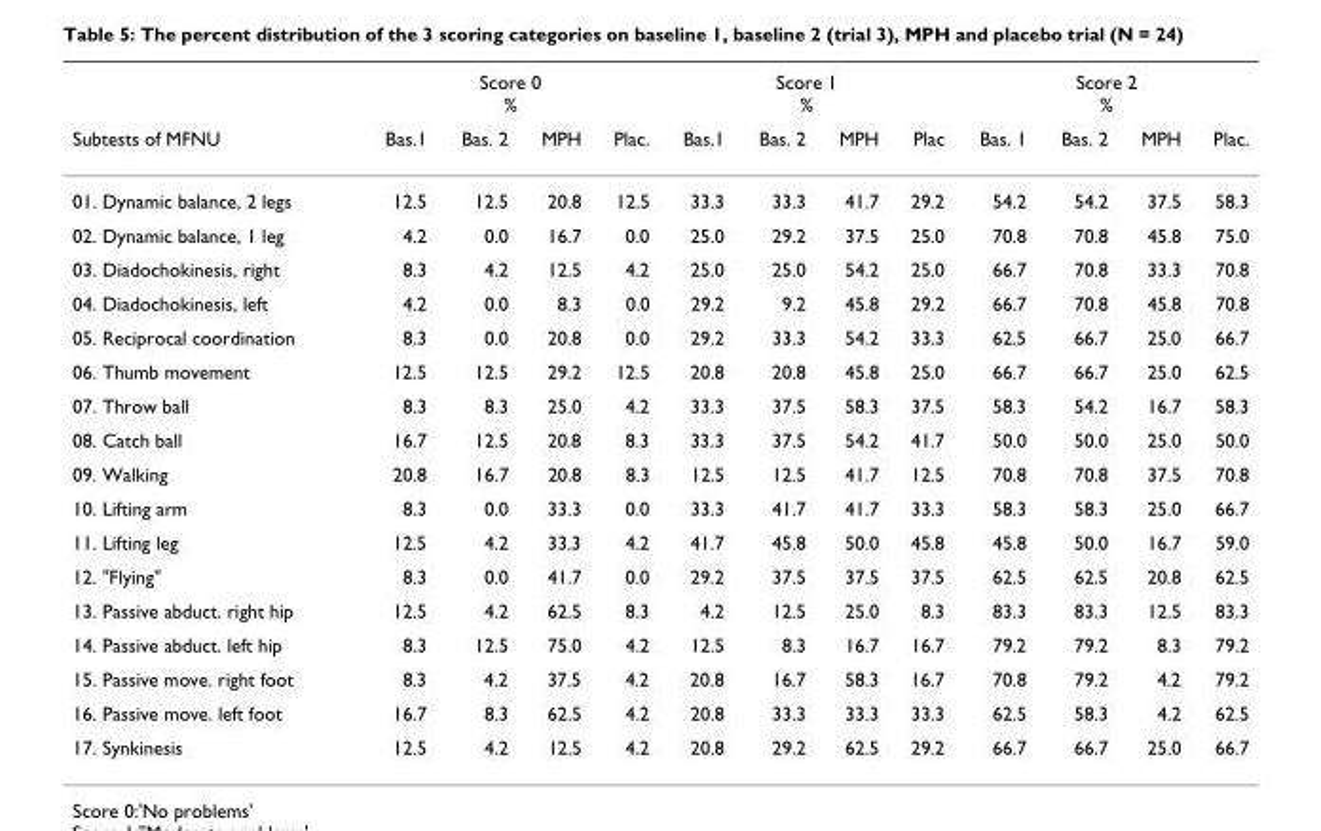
<table><thead><tr><td rowspan="2">Subtests of MFNU</td><td colspan="4">Score 0 %</td><td colspan="4">Score 1 %</td><td colspan="4">Score 2 %</td></tr><tr><td>Bas.1</td><td>Bas. 2</td><td>MPH</td><td>Plac.</td><td>Bas.1</td><td>Bas. 2</td><td>MPH</td><td>Plac</td><td>Bas. 1</td><td>Bas. 2</td><td>MPH</td><td>Plac.</td></tr></thead><tbody><tr><td>01. Dynamic balance, 2 legs</td><td>12.5</td><td>12.5</td><td>20.8</td><td>12.5</td><td>33.3</td><td>33.3</td><td>41.7</td><td>29.2</td><td>54.2</td><td>54.2</td><td>37.5</td><td>58.3</td></tr><tr><td>02. Dynamic balance, 1 leg</td><td>4.2</td><td>0.0</td><td>16.7</td><td>0.0</td><td>25.0</td><td>29.2</td><td>37.5</td><td>25.0</td><td>70.8</td><td>70.8</td><td>45.8</td><td>75.0</td></tr><tr><td>03. Diadochokinesis, right</td><td>8.3</td><td>4.2</td><td>12.5</td><td>4.2</td><td>25.0</td><td>25.0</td><td>54.2</td><td>25.0</td><td>66.7</td><td>70.8</td><td>33.3</td><td>70.8</td></tr><tr><td>04. Diadochokinesis, left</td><td>4.2</td><td>0.0</td><td>8.3</td><td>0.0</td><td>29.2</td><td>9.2</td><td>45.8</td><td>29.2</td><td>66.7</td><td>70.8</td><td>45.8</td><td>70.8</td></tr><tr><td>05. Reciprocal coordination</td><td>8.3</td><td>0.0</td><td>20.8</td><td>0.0</td><td>29.2</td><td>33.3</td><td>54.2</td><td>33.3</td><td>62.5</td><td>66.7</td><td>25.0</td><td>66.7</td></tr><tr><td>06. Thumb movement</td><td>12.5</td><td>12.5</td><td>29.2</td><td>12.5</td><td>20.8</td><td>20.8</td><td>45.8</td><td>25.0</td><td>66.7</td><td>66.7</td><td>25.0</td><td>62.5</td></tr><tr><td>07. Throw ball</td><td>8.3</td><td>8.3</td><td>25.0</td><td>4.2</td><td>33.3</td><td>37.5</td><td>58.3</td><td>37.5</td><td>58.3</td><td>54.2</td><td>16.7</td><td>58.3</td></tr><tr><td>08. Catch ball</td><td>16.7</td><td>12.5</td><td>20.8</td><td>8.3</td><td>33.3</td><td>37.5</td><td>54.2</td><td>41.7</td><td>50.0</td><td>50.0</td><td>25.0</td><td>50.0</td></tr><tr><td>09. Walking</td><td>20.8</td><td>16.7</td><td>20.8</td><td>8.3</td><td>12.5</td><td>12.5</td><td>41.7</td><td>12.5</td><td>70.8</td><td>70.8</td><td>37.5</td><td>70.8</td></tr><tr><td>10. Lifting arm</td><td>8.3</td><td>0.0</td><td>33.3</td><td>0.0</td><td>33.3</td><td>41.7</td><td>41.7</td><td>33.3</td><td>58.3</td><td>58.3</td><td>25.0</td><td>66.7</td></tr><tr><td>11. Lifting leg</td><td>12.5</td><td>4.2</td><td>33.3</td><td>4.2</td><td>41.7</td><td>45.8</td><td>50.0</td><td>45.8</td><td>45.8</td><td>50.0</td><td>16.7</td><td>59.0</td></tr><tr><td>12. &quot;Flying&quot;</td><td>8.3</td><td>0.0</td><td>41.7</td><td>0.0</td><td>29.2</td><td>37.5</td><td>37.5</td><td>37.5</td><td>62.5</td><td>62.5</td><td>20.8</td><td>62.5</td></tr><tr><td>13. Passive abduct. right hip</td><td>12.5</td><td>4.2</td><td>62.5</td><td>8.3</td><td>4.2</td><td>12.5</td><td>25.0</td><td>8.3</td><td>83.3</td><td>83.3</td><td>12.5</td><td>83.3</td></tr><tr><td>14. Passive abduct. left hip</td><td>8.3</td><td>12.5</td><td>75.0</td><td>4.2</td><td>12.5</td><td>8.3</td><td>16.7</td><td>16.7</td><td>79.2</td><td>79.2</td><td>8.3</td><td>79.2</td></tr><tr><td>15. Passive move. right foot</td><td>8.3</td><td>4.2</td><td>37.5</td><td>4.2</td><td>20.8</td><td>16.7</td><td>58.3</td><td>16.7</td><td>70.8</td><td>79.2</td><td>4.2</td><td>79.2</td></tr><tr><td>16. Passive move. left foot</td><td>16.7</td><td>8.3</td><td>62.5</td><td>4.2</td><td>20.8</td><td>33.3</td><td>33.3</td><td>33.3</td><td>62.5</td><td>58.3</td><td>4.2</td><td>62.5</td></tr><tr><td>17. Synkinesis</td><td>12.5</td><td>4.2</td><td>12.5</td><td>4.2</td><td>20.8</td><td>29.2</td><td>62.5</td><td>29.2</td><td>66.7</td><td>66.7</td><td>25.0</td><td>66.7</td></tr></tbody></table>